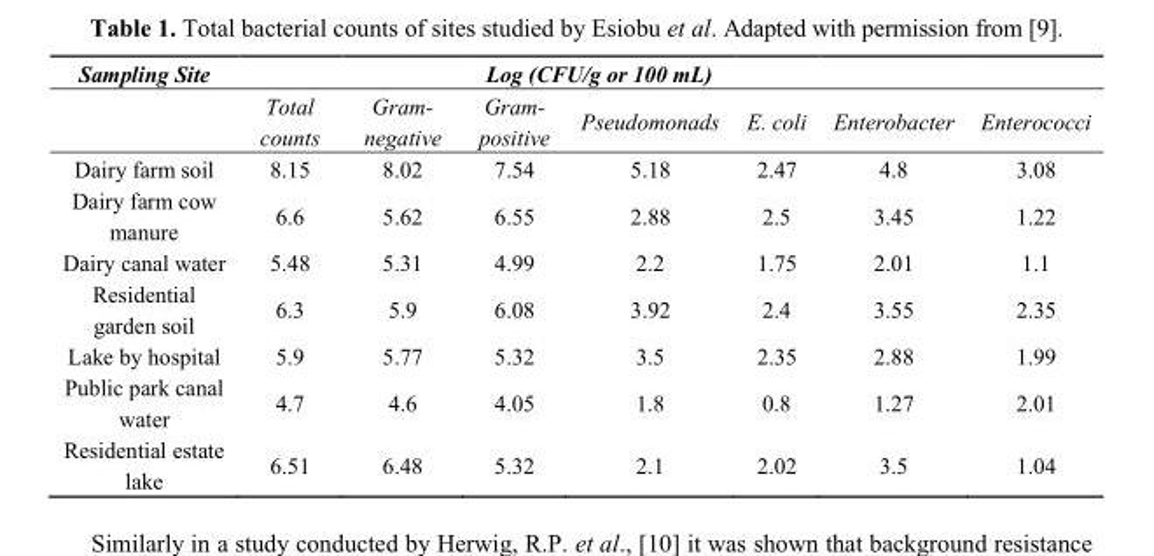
<table><tbody><tr><td rowspan="2">Sampling Site</td><td></td><td></td><td colspan="2">Log (CFU/g or 100 mL)</td><td></td><td></td><td></td></tr><tr><td>Total counts</td><td>Gram- negative</td><td>Gram- positive</td><td>Pseudomonads</td><td>E. coli</td><td>Enterobacter</td><td>Enterococci</td></tr><tr><td>Dairy farm soil</td><td>8.15</td><td>8.02</td><td>7.54</td><td>5.18</td><td>2.47</td><td>4.8</td><td>3.08</td></tr><tr><td>Dairy farm cow manure</td><td>6.6</td><td>5.62</td><td>6.55</td><td>2.88</td><td>2.5</td><td>3.45</td><td>1.22</td></tr><tr><td>Dairy canal water</td><td>5.48</td><td>5.31</td><td>4.99</td><td>2.2</td><td>1.75</td><td>2.01</td><td>1.1</td></tr><tr><td>Residential garden soil</td><td>6.3</td><td>5.9</td><td>6.08</td><td>3.92</td><td>2.4</td><td>3.55</td><td>2.35</td></tr><tr><td>Lake by hospital</td><td>5.9</td><td>5.77</td><td>5.32</td><td>3.5</td><td>2.35</td><td>2.88</td><td>1.99</td></tr><tr><td>Public park canal water</td><td>4.7</td><td>4.6</td><td>4.05</td><td>1.8</td><td>0.8</td><td>1.27</td><td>2.01</td></tr><tr><td>Residential estate lake</td><td>6.51</td><td>6.48</td><td>5.32</td><td>2.1</td><td>2.02</td><td>3.5</td><td>1.04</td></tr></tbody></table>